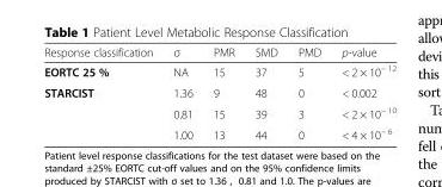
<table><thead><tr><td>Response classification</td><td>σ</td><td>PMR</td><td>SMD</td><td>PMD</td><td>p-value</td></tr></thead><tbody><tr><td>EORTC 25 %</td><td>NA</td><td>15</td><td>37</td><td>5</td><td>&lt; 2 × 10<sup>− 12</sup></td></tr><tr><td rowspan="3">STARCIST</td><td>1.36</td><td>9</td><td>48</td><td>0</td><td>&lt; 0.002</td></tr><tr><td>0.81</td><td>15</td><td>39</td><td>3</td><td>&lt; 2 × 10<sup>− 10</sup></td></tr><tr><td>1.00</td><td>13</td><td>44</td><td>0</td><td>&lt; 4 × 10<sup>− 6</sup></td></tr></tbody></table>